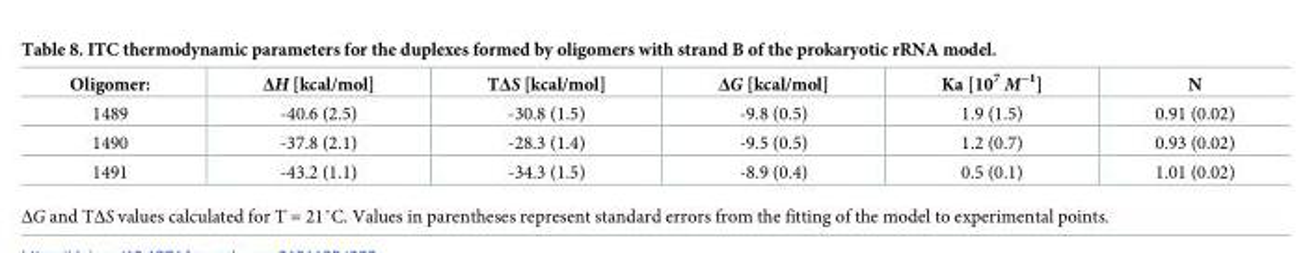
<table><thead><tr><td>Oligomer:</td><td>ΔH [kcal/mol]</td><td>TΔS [kcal/mol]</td><td>ΔG [kcal/mol]</td><td>Ka [10<sup>7</sup> M<sup>−1</sup>]</td><td>N</td></tr></thead><tbody><tr><td>1489</td><td>-40.6 (2.5)</td><td>-30.8 (1.5)</td><td>-9.8 (0.5)</td><td>1.9 (1.5)</td><td>0.91 (0.02)</td></tr><tr><td>1490</td><td>-37.8 (2.1)</td><td>-28.3 (1.4)</td><td>-9.5 (0.5)</td><td>1.2 (0.7)</td><td>0.93 (0.02)</td></tr><tr><td>1491</td><td>-43.2 (1.1)</td><td>-34.3 (1.5)</td><td>-8.9 (0.4)</td><td>0.5 (0.1)</td><td>1.01 (0.02)</td></tr></tbody></table>